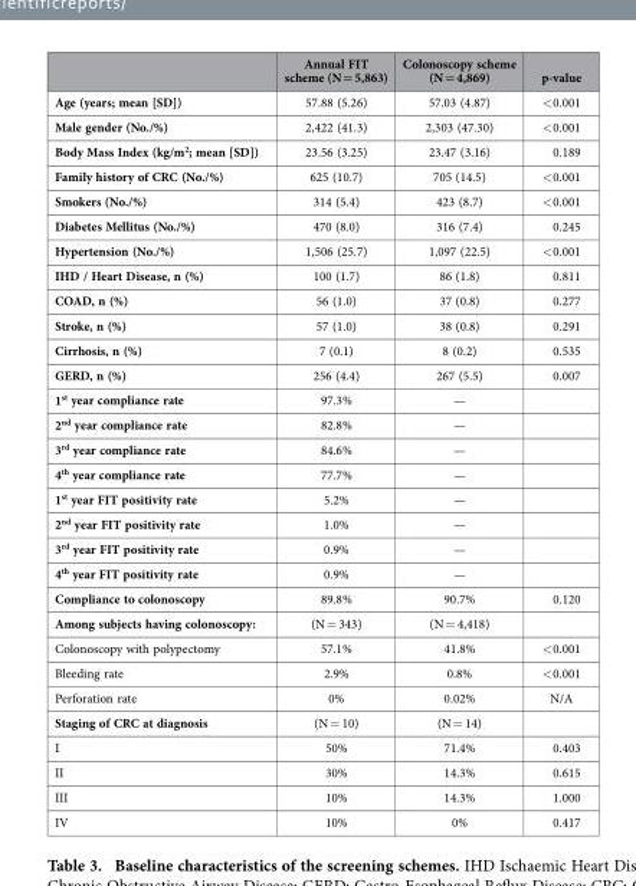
<table><thead><tr><td></td><td>Annual FIT scheme (N = 5,863)</td><td>Colonoscopy scheme (N = 4,869)</td><td>p-value</td></tr></thead><tbody><tr><td>Age (years; mean [SD])</td><td>57.88 (5.26)</td><td>57.03 (4.87)</td><td>&lt; 0.001</td></tr><tr><td>Male gender (No./%)</td><td>2,422 (41.3)</td><td>2,303 (47.30)</td><td>&lt; 0.001</td></tr><tr><td>Body Mass Index (kg/m<sup>2</sup>; mean [SD])</td><td>23.56 (3.25)</td><td>23.47 (3.16)</td><td>0.189</td></tr><tr><td>Family history of CRC (No./%)</td><td>625 (10.7)</td><td>705 (14.5)</td><td>&lt; 0.001</td></tr><tr><td>Smokers (No./%)</td><td>314 (5.4)</td><td>423 (8.7)</td><td>&lt; 0.001</td></tr><tr><td>Diabetes Mellitus (No./%)</td><td>470 (8.0)</td><td>316 (7.4)</td><td>0.245</td></tr><tr><td>Hypertension (No./%)</td><td>1,506 (25.7)</td><td>1,097 (22.5)</td><td>&lt; 0.001</td></tr><tr><td>IHD / Heart Disease, n (%)</td><td>100 (1.7)</td><td>86 (1.8)</td><td>0.811</td></tr><tr><td>COAD, n (%)</td><td>56 (1.0)</td><td>37 (0.8)</td><td>0.277</td></tr><tr><td>Stroke, n (%)</td><td>57 (1.0)</td><td>38 (0.8)</td><td>0.291</td></tr><tr><td>Cirrhosis, n (%)</td><td>7 (0.1)</td><td>8 (0.2)</td><td>0.535</td></tr><tr><td>GERD, n (%)</td><td>256 (4.4)</td><td>267 (5.5)</td><td>0.007</td></tr><tr><td>1<sup>st</sup> year compliance rate</td><td>97.3%</td><td>—</td><td></td></tr><tr><td>2<sup>nd</sup> year compliance rate</td><td>82.8%</td><td>—</td><td></td></tr><tr><td>3<sup>rd</sup> year compliance rate</td><td>84.6%</td><td>—</td><td></td></tr><tr><td>4<sup>th</sup> year compliance rate</td><td>77.7%</td><td>—</td><td></td></tr><tr><td>1<sup>st</sup> year FIT positivity rate</td><td>5.2%</td><td>—</td><td></td></tr><tr><td>2<sup>nd</sup> year FIT positivity rate</td><td>1.0%</td><td>—</td><td></td></tr><tr><td>3<sup>rd</sup> year FIT positivity rate</td><td>0.9%</td><td>—</td><td></td></tr><tr><td>4<sup>th</sup> year FIT positivity rate</td><td>0.9%</td><td>—</td><td></td></tr><tr><td>Compliance to colonoscopy</td><td>89.8%</td><td>90.7%</td><td>0.120</td></tr><tr><td>Among subjects having colonoscopy:</td><td>(N = 343)</td><td>(N = 4,418)</td><td></td></tr><tr><td>Colonoscopy with polypectomy</td><td>57.1%</td><td>41.8%</td><td>&lt; 0.001</td></tr><tr><td>Bleeding rate</td><td>2.9%</td><td>0.8%</td><td>&lt; 0.001</td></tr><tr><td>Perforation rate</td><td>0%</td><td>0.02%</td><td>N/A</td></tr><tr><td>Staging of CRC at diagnosis</td><td>(N = 10)</td><td>(N = 14)</td><td></td></tr><tr><td>I</td><td>50%</td><td>71.4%</td><td>0.403</td></tr><tr><td>II</td><td>30%</td><td>14.3%</td><td>0.615</td></tr><tr><td>III</td><td>10%</td><td>14.3%</td><td>1.000</td></tr><tr><td>IV</td><td>10%</td><td>0%</td><td>0.417</td></tr></tbody></table>